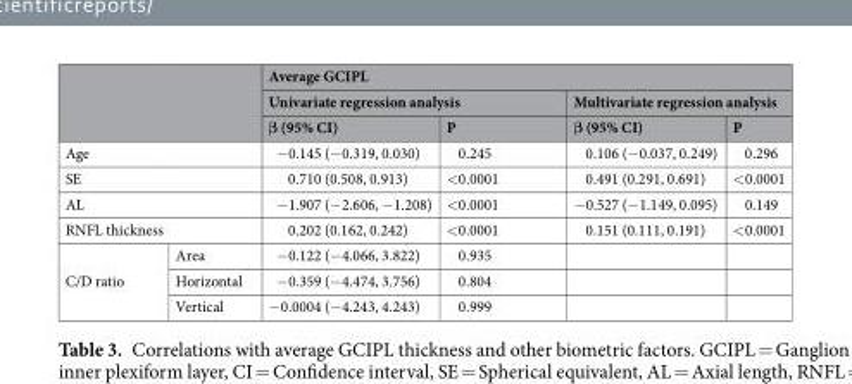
<table><thead><tr><td rowspan="3"></td><td rowspan="3"></td><td colspan="4">Average GCIPL</td></tr><tr><td colspan="2">Univariate regression analysis</td><td colspan="2">Multivariate regression analysis</td></tr><tr><td>β (95% CI)</td><td>P</td><td>β (95% CI)</td><td>P</td></tr></thead><tbody><tr><td colspan="2">Age</td><td>−0.145 (−0.319, 0.030)</td><td>0.245</td><td>0.106 (−0.037, 0.249)</td><td>0.296</td></tr><tr><td colspan="2">SE</td><td>0.710 (0.508, 0.913)</td><td>&lt;0.0001</td><td>0.491 (0.291, 0.691)</td><td>&lt;0.0001</td></tr><tr><td colspan="2">AL</td><td>−1.907 (−2.606, −1.208)</td><td>&lt;0.0001</td><td>−0.527 (−1.149, 0.095)</td><td>0.149</td></tr><tr><td colspan="2">RNFL thickness</td><td>0.202 (0.162, 0.242)</td><td>&lt;0.0001</td><td>0.151 (0.111, 0.191)</td><td>&lt;0.0001</td></tr><tr><td rowspan="3">C/D ratio</td><td>Area</td><td>−0.122 (−4.066, 3.822)</td><td>0.935</td><td></td><td></td></tr><tr><td>Horizontal</td><td>−0.359 (−4.474, 3.756)</td><td>0.804</td><td></td><td></td></tr><tr><td>Vertical</td><td>−0.0004 (−4.243, 4.243)</td><td>0.999</td><td></td><td></td></tr></tbody></table>